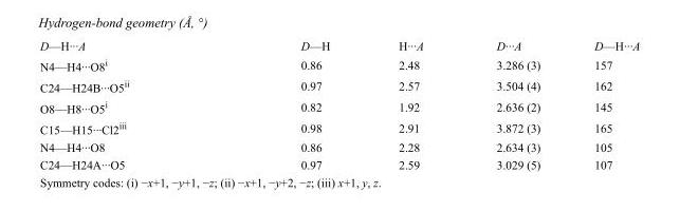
<table><tbody><tr><td>D—H···A</td><td>D—H</td><td>H···A</td><td>D···A</td><td>D—H···A</td></tr><tr><td>N4—H4···O8<sup>i</sup></td><td>0.86</td><td>2.48</td><td>3.286 (3)</td><td>157</td></tr><tr><td>C24—H24B···O5<sup>ii</sup></td><td>0.97</td><td>2.57</td><td>3.504 (4)</td><td>162</td></tr><tr><td>O8—H8···O5<sup>i</sup></td><td>0.82</td><td>1.92</td><td>2.636 (2)</td><td>145</td></tr><tr><td>C15—H15···Cl2<sup>iii</sup></td><td>0.98</td><td>2.91</td><td>3.872 (3)</td><td>165</td></tr><tr><td>N4—H4···O8</td><td>0.86</td><td>2.28</td><td>2.634 (3)</td><td>105</td></tr><tr><td>C24—H24A···O5</td><td>0.97</td><td>2.59</td><td>3.029 (5)</td><td>107</td></tr></tbody></table>